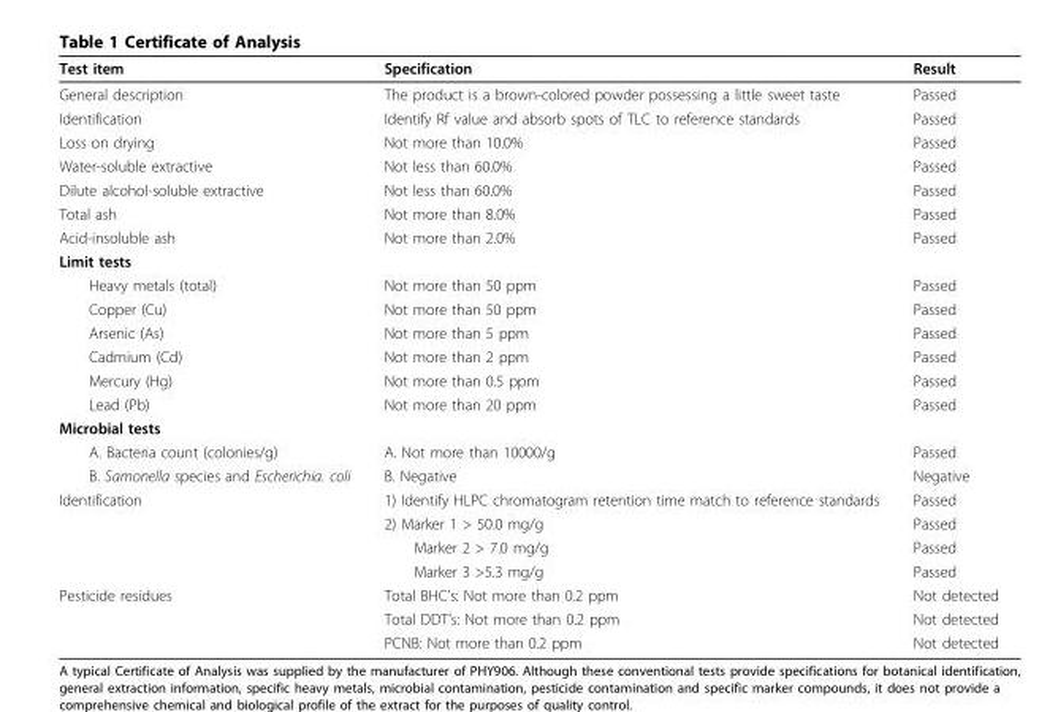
<table><thead><tr><td>Test item</td><td>Specification</td><td>Result</td></tr></thead><tbody><tr><td>General description</td><td>The product is a brown-colored powder possessing a little sweet taste</td><td>Passed</td></tr><tr><td>Identification</td><td>Identify Rf value and absorb spots of TLC to reference standards</td><td>Passed</td></tr><tr><td>Loss on drying</td><td>Not more than 10.0%</td><td>Passed</td></tr><tr><td>Water-soluble extractive</td><td>Not less than 60.0%</td><td>Passed</td></tr><tr><td>Dilute alcohol-soluble extractive</td><td>Not less than 60.0%</td><td>Passed</td></tr><tr><td>Total ash</td><td>Not more than 8.0%</td><td>Passed</td></tr><tr><td>Acid-insoluble ash</td><td>Not more than 2.0%</td><td>Passed</td></tr><tr><td colspan="3">Limit tests</td></tr><tr><td>Heavy metals (total)</td><td>Not more than 50 ppm</td><td>Passed</td></tr><tr><td>Copper (Cu)</td><td>Not more than 50 ppm</td><td>Passed</td></tr><tr><td>Arsenic (As)</td><td>Not more than 5 ppm</td><td>Passed</td></tr><tr><td>Cadmium (Cd)</td><td>Not more than 2 ppm</td><td>Passed</td></tr><tr><td>Mercury (Hg)</td><td>Not more than 0.5 ppm</td><td>Passed</td></tr><tr><td>Lead (Pb)</td><td>Not more than 20 ppm</td><td>Passed</td></tr><tr><td colspan="3">Microbial tests</td></tr><tr><td>A. Bacteria count (colonies/g)</td><td>A. Not more than 10000/g</td><td>Passed</td></tr><tr><td>B. Samonella species and Escherichia. coli</td><td>B. Negative</td><td>Negative</td></tr><tr><td rowspan="4">Identification</td><td>1) Identify HLPC chromatogram retention time match to reference standards</td><td>Passed</td></tr><tr><td>2) Marker 1 &gt; 50.0 mg/g</td><td>Passed</td></tr><tr><td>Marker 2 &gt; 7.0 mg/g</td><td>Passed</td></tr><tr><td>Marker 3 &gt;5.3 mg/g</td><td>Passed</td></tr><tr><td rowspan="3">Pesticide residues</td><td>Total BHC’s: Not more than 0.2 ppm</td><td>Not detected</td></tr><tr><td>Total DDT’s: Not more than 0.2 ppm</td><td>Not detected</td></tr><tr><td>PCNB: Not more than 0.2 ppm</td><td>Not detected</td></tr></tbody></table>